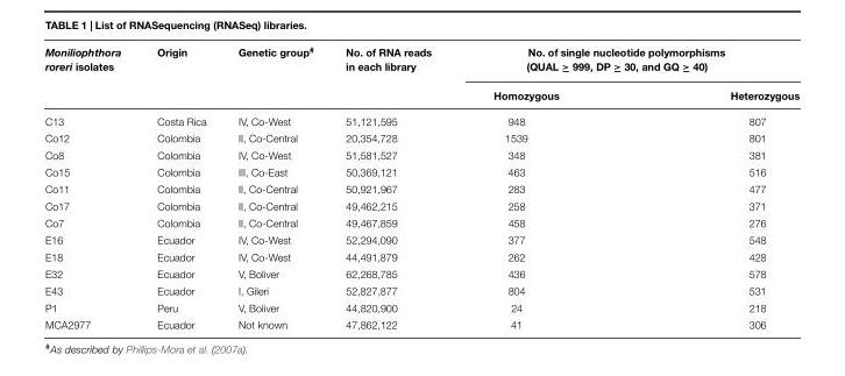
<table><thead><tr><td rowspan="2">Moniliophthora roreri isolates</td><td rowspan="2">Origin</td><td rowspan="2">Genetic group<sup>#</sup></td><td rowspan="2">No. of RNA reads in each library</td><td colspan="2">No. of single nucleotide polymorphisms (QUAL ≥ 999, DP ≥ 30, and GQ ≥ 40)</td></tr><tr><td>Homozygous</td><td>Heterozygous</td></tr></thead><tbody><tr><td>C13</td><td>Costa Rica</td><td>IV, Co-West</td><td>51,121,595</td><td>948</td><td>807</td></tr><tr><td>Co12</td><td>Colombia</td><td>II, Co-Central</td><td>20,354,728</td><td>1539</td><td>801</td></tr><tr><td>Co8</td><td>Colombia</td><td>IV, Co-West</td><td>51,581,527</td><td>348</td><td>381</td></tr><tr><td>Co15</td><td>Colombia</td><td>III, Co-East</td><td>50,369,121</td><td>463</td><td>516</td></tr><tr><td>Co11</td><td>Colombia</td><td>II, Co-Central</td><td>50,921,967</td><td>283</td><td>477</td></tr><tr><td>Co17</td><td>Colombia</td><td>II, Co-Central</td><td>49,462,215</td><td>258</td><td>371</td></tr><tr><td>Co7</td><td>Colombia</td><td>II, Co-Central</td><td>49,467,859</td><td>458</td><td>276</td></tr><tr><td>E16</td><td>Ecuador</td><td>IV, Co-West</td><td>52,294,090</td><td>377</td><td>548</td></tr><tr><td>E18</td><td>Ecuador</td><td>IV, Co-West</td><td>44,491,879</td><td>262</td><td>428</td></tr><tr><td>E32</td><td>Ecuador</td><td>V, Boliver</td><td>62,268,785</td><td>436</td><td>578</td></tr><tr><td>E43</td><td>Ecuador</td><td>I, Gileri</td><td>52,827,877</td><td>804</td><td>531</td></tr><tr><td>P1</td><td>Peru</td><td>V, Boliver</td><td>44,820,900</td><td>24</td><td>218</td></tr><tr><td>MCA2977</td><td>Ecuador</td><td>Not known</td><td>47,862,122</td><td>41</td><td>306</td></tr></tbody></table>